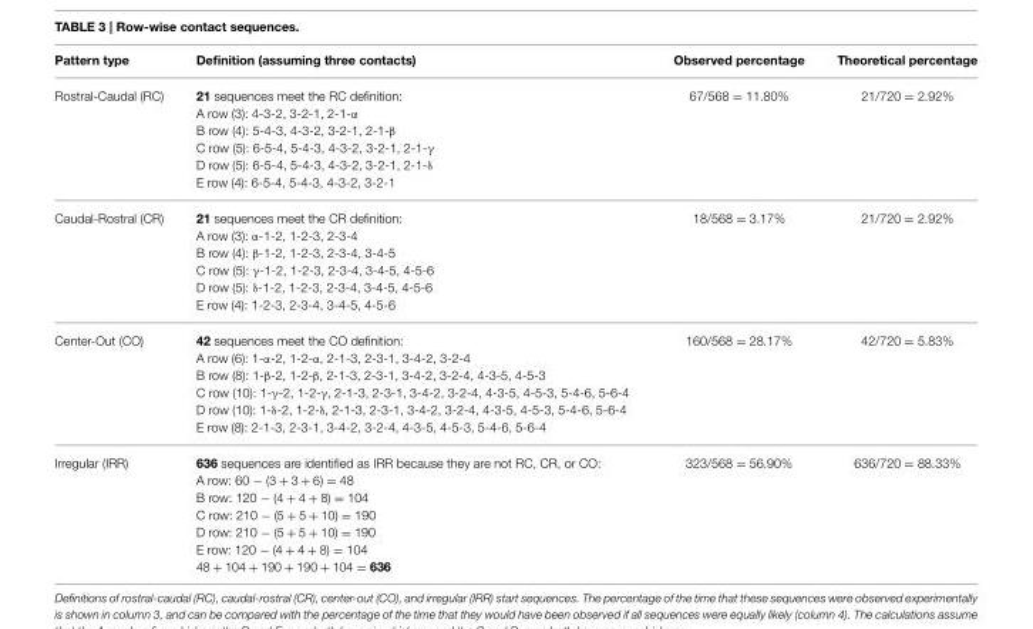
<table><thead><tr><td>Pattern type</td><td>Definition (assuming three contacts)</td><td>Observed percentage</td><td>Theoretical percentage</td></tr></thead><tbody><tr><td>Rostral-Caudal (RC)</td><td>21 sequences meet the RC definition: A row (3): 4-3-2, 3-2-1, 2-1-α B row (4): 5-4-3, 4-3-2, 3-2-1, 2-1-β C row (5): 6-5-4, 5-4-3, 4-3-2, 3-2-1, 2-1-γ D row (5): 6-5-4, 5-4-3, 4-3-2, 3-2-1, 2-1-δ E row (4): 6-5-4, 5-4-3, 4-3-2, 3-2-1</td><td>67/568 = 11.80%</td><td>21/720 = 2.92%</td></tr><tr><td>Caudal-Rostral (CR)</td><td>21 sequences meet the CR definition: A row (3): α-1-2, 1-2-3, 2-3-4 B row (4): β-1-2, 1-2-3, 2-3-4, 3-4-5 C row (5): γ-1-2, 1-2-3, 2-3-4, 3-4-5, 4-5-6 D row (5): δ-1-2, 1-2-3, 2-3-4, 3-4-5, 4-5-6 E row (4): 1-2-3, 2-3-4, 3-4-5, 4-5-6</td><td>18/568 = 3.17%</td><td>21/720 = 2.92%</td></tr><tr><td>Center-Out (CO)</td><td>42 sequences meet the CO definition: A row (6): 1-α-2, 1-2-α, 2-1-3, 2-3-1, 3-4-2, 3-2-4 B row (8): 1-β-2, 1-2-β, 2-1-3, 2-3-1, 3-4-2, 3-2-4, 4-3-5, 4-5-3 C row (10): 1-γ-2, 1-2-γ, 2-1-3, 2-3-1, 3-4-2, 3-2-4, 4-3-5, 4-5-3, 5-4-6, 5-6-4 D row (10): 1-δ-2, 1-2-δ, 2-1-3, 2-3-1, 3-4-2, 3-2-4, 4-3-5, 4-5-3, 5-4-6, 5-6-4 E row (8): 2-1-3, 2-3-1, 3-4-2, 3-2-4, 4-3-5, 4-5-3, 5-4-6, 5-6-4</td><td>160/568 = 28.17%</td><td>42/720 = 5.83%</td></tr><tr><td>Irregular (IRR)</td><td>636 sequences are identified as IRR because they are not RC, CR, or CO: A row: 60 − (3 + 3 + 6) = 48 B row: 120 − (4 + 4 + 8) = 104 C row: 210 − (5 + 5 + 10) = 190 D row: 210 − (5 + 5 + 10) = 190 E row: 120 − (4 + 4 + 8) = 104 48 + 104 + 190 + 190 + 104 = 636</td><td>323/568 = 56.90%</td><td>636/720 = 88.33%</td></tr></tbody></table>